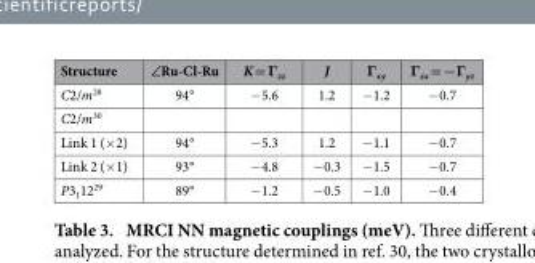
<table><thead><tr><td>Structure</td><td>∠Ru-Cl-Ru</td><td>K = Γ<sub>zz</sub></td><td>J</td><td>Γ<sub>xy</sub></td><td>Γ<sub>zx</sub> = −Γ<sub>yz</sub></td></tr></thead><tbody><tr><td>C2/m<sup>28</sup></td><td>94°</td><td>− 5.6</td><td>1.2</td><td>− 1.2</td><td>− 0.7</td></tr><tr><td colspan="6">C2/m<sup>30</sup></td></tr><tr><td>Link 1 (× 2)</td><td>94°</td><td>− 5.3</td><td>1.2</td><td>− 1.1</td><td>− 0.7</td></tr><tr><td>Link 2 (× 1)</td><td>93°</td><td>− 4.8</td><td>− 0.3</td><td>− 1.5</td><td>− 0.7</td></tr><tr><td>P3<sub>1</sub>12<sup>29</sup></td><td>89°</td><td>− 1.2</td><td>− 0.5</td><td>− 1.0</td><td>− 0.4</td></tr></tbody></table>